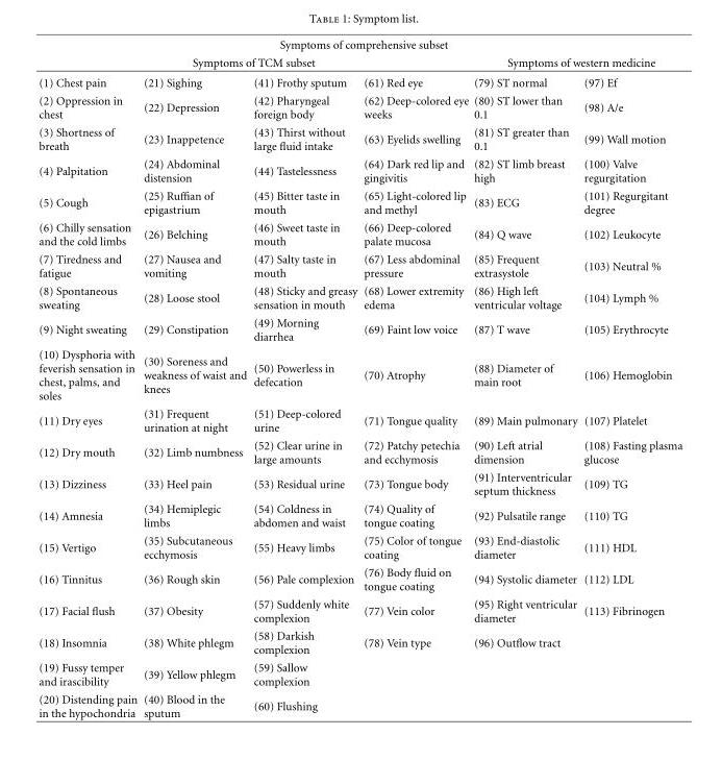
<table><thead><tr><td colspan="6">Symptoms of comprehensive subset</td></tr><tr><td colspan="4">Symptoms of TCM subset</td><td colspan="2">Symptoms of western medicine</td></tr><tr><td>(1) Chest pain</td><td>(21) Sighing</td><td>(41) Frothy sputum</td><td>(61) Red eye</td><td>(79) ST normal</td><td>(97) Ef</td></tr></thead><tbody><tr><td>(2) Oppression in chest</td><td>(22) Depression</td><td>(42) Pharyngeal foreign body</td><td>(62) Deep-colored eye weeks</td><td>(80) ST lower than 0.1</td><td>(98) A/e</td></tr><tr><td>(3) Shortness of breath</td><td>(23) Inappetence</td><td>(43) Thirst without large fluid intake</td><td>(63) Eyelids swelling</td><td>(81) ST greater than 0.1</td><td>(99) Wall motion</td></tr><tr><td>(4) Palpitation</td><td>(24) Abdominal distension</td><td>(44) Tastelessness</td><td>(64) Dark red lip and gingivitis</td><td>(82) ST limb breast high</td><td>(100) Valve regurgitation</td></tr><tr><td>(5) Cough</td><td>(25) Ruffian of epigastrium</td><td>(45) Bitter taste in mouth</td><td>(65) Light-colored lip and methyl</td><td>(83) ECG</td><td>(101) Regurgitant degree</td></tr><tr><td>(6) Chilly sensation and the cold limbs</td><td>(26) Belching</td><td>(46) Sweet taste in mouth</td><td>(66) Deep-colored palate mucosa</td><td>(84) Q wave</td><td>(102) Leukocyte</td></tr><tr><td>(7) Tiredness and fatigue</td><td>(27) Nausea and vomiting</td><td>(47) Salty taste in mouth</td><td>(67) Less abdominal pressure</td><td>(85) Frequent extrasystole</td><td>(103) Neutral %</td></tr><tr><td>(8) Spontaneous sweating</td><td>(28) Loose stool</td><td>(48) Sticky and greasy sensation in mouth</td><td>(68) Lower extremity edema</td><td>(86) High left ventricular voltage</td><td>(104) Lymph %</td></tr><tr><td>(9) Night sweating</td><td>(29) Constipation</td><td>(49) Morning diarrhea</td><td>(69) Faint low voice</td><td>(87) T wave</td><td>(105) Erythrocyte</td></tr><tr><td>(10) Dysphoria with feverish sensation in chest, palms, and soles</td><td>(30) Soreness and weakness of waist and knees</td><td>(50) Powerless in defecation</td><td>(70) Atrophy</td><td>(88) Diameter of main root</td><td>(106) Hemoglobin</td></tr><tr><td>(11) Dry eyes</td><td>(31) Frequent urination at night</td><td>(51) Deep-colored urine</td><td>(71) Tongue quality</td><td>(89) Main pulmonary</td><td>(107) Platelet</td></tr><tr><td>(12) Dry mouth</td><td>(32) Limb numbness</td><td>(52) Clear urine in large amounts</td><td>(72) Patchy petechia and ecchymosis</td><td>(90) Left atrial dimension</td><td>(108) Fasting plasma glucose</td></tr><tr><td>(13) Dizziness</td><td>(33) Heel pain</td><td>(53) Residual urine</td><td>(73) Tongue body</td><td>(91) Interventricular septum thickness</td><td>(109) TG</td></tr><tr><td>(14) Amnesia</td><td>(34) Hemiplegic limbs</td><td>(54) Coldness in abdomen and waist</td><td>(74) Quality of tongue coating</td><td>(92) Pulsatile range</td><td>(110) TG</td></tr><tr><td>(15) Vertigo</td><td>(35) Subcutaneous ecchymosis</td><td>(55) Heavy limbs</td><td>(75) Color of tongue coating</td><td>(93) End-diastolic diameter</td><td>(111) HDL</td></tr><tr><td>(16) Tinnitus</td><td>(36) Rough skin</td><td>(56) Pale complexion</td><td>(76) Body fluid on tongue coating</td><td>(94) Systolic diameter</td><td>(112) LDL</td></tr><tr><td>(17) Facial flush</td><td>(37) Obesity</td><td>(57) Suddenly white complexion</td><td>(77) Vein color</td><td>(95) Right ventricular diameter</td><td>(113) Fibrinogen</td></tr><tr><td>(18) Insomnia</td><td>(38) White phlegm</td><td>(58) Darkish complexion</td><td>(78) Vein type</td><td>(96) Outflow tract</td><td></td></tr><tr><td>(19) Fussy temper and irascibility</td><td>(39) Yellow phlegm</td><td>(59) Sallow complexion</td><td></td><td></td><td></td></tr><tr><td>(20) Distending pain in the hypochondria</td><td>(40) Blood in the sputum</td><td>(60) Flushing</td><td></td><td></td><td></td></tr></tbody></table>